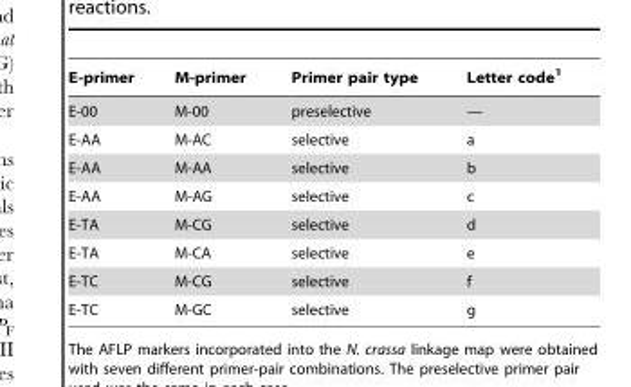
<table><thead><tr><td>E-primer</td><td>M-primer</td><td>Primer pair type</td><td>Letter code<sup>1</sup></td></tr></thead><tbody><tr><td>E-00</td><td>M-00</td><td>preselective</td><td>—</td></tr><tr><td>E-AA</td><td>M-AC</td><td>selective</td><td>a</td></tr><tr><td>E-AA</td><td>M-AA</td><td>selective</td><td>b</td></tr><tr><td>E-AA</td><td>M-AG</td><td>selective</td><td>c</td></tr><tr><td>E-TA</td><td>M-CG</td><td>selective</td><td>d</td></tr><tr><td>E-TA</td><td>M-CA</td><td>selective</td><td>e</td></tr><tr><td>E-TC</td><td>M-CG</td><td>selective</td><td>f</td></tr><tr><td>E-TC</td><td>M-GC</td><td>selective</td><td>g</td></tr></tbody></table>